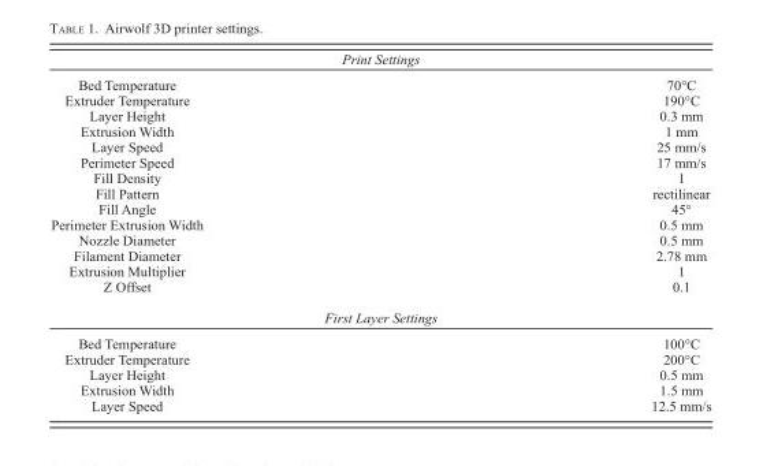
<table><thead><tr><td colspan="2">Print Settings</td></tr><tr><td>Bed Temperature</td><td>70°C</td></tr></thead><tbody><tr><td>Extruder Temperature</td><td>190°C</td></tr><tr><td>Layer Height</td><td>0.3 mm</td></tr><tr><td>Extrusion Width</td><td>1 mm</td></tr><tr><td>Layer Speed</td><td>25 mm/s</td></tr><tr><td>Perimeter Speed</td><td>17 mm/s</td></tr><tr><td>Fill Density</td><td>1</td></tr><tr><td>Fill Pattern</td><td>rectilinear</td></tr><tr><td>Fill Angle</td><td>45°</td></tr><tr><td>Perimeter Extrusion Width</td><td>0.5 mm</td></tr><tr><td>Nozzle Diameter</td><td>0.5 mm</td></tr><tr><td>Filament Diameter</td><td>2.78 mm</td></tr><tr><td>Extrusion Multiplier</td><td>1</td></tr><tr><td>Z Offset</td><td>0.1</td></tr><tr><td colspan="2">First Layer Settings</td></tr><tr><td>Bed Temperature</td><td>100°C</td></tr><tr><td>Extruder Temperature</td><td>200°C</td></tr><tr><td>Layer Height</td><td>0.5 mm</td></tr><tr><td>Extrusion Width</td><td>1.5 mm</td></tr><tr><td>Layer Speed</td><td>12.5 mm/s</td></tr></tbody></table>